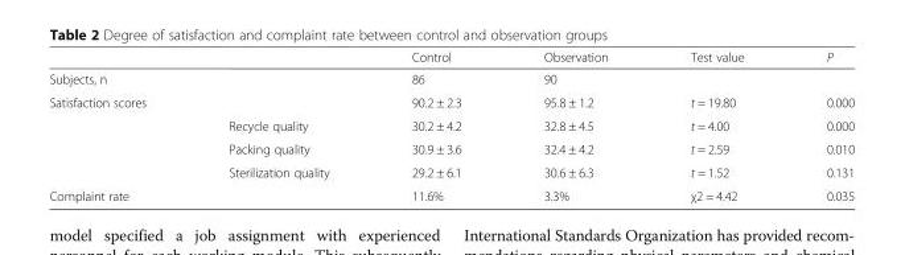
<table><thead><tr><td></td><td></td><td>Control</td><td>Observation</td><td>Test value</td><td>P</td></tr></thead><tbody><tr><td>Subjects, n</td><td></td><td>86</td><td>90</td><td></td><td></td></tr><tr><td rowspan="4">Satisfaction scores</td><td></td><td>90.2 ± 2.3</td><td>95.8 ± 1.2</td><td>t = 19.80</td><td>0.000</td></tr><tr><td>Recycle quality</td><td>30.2 ± 4.2</td><td>32.8 ± 4.5</td><td>t = 4.00</td><td>0.000</td></tr><tr><td>Packing quality</td><td>30.9 ± 3.6</td><td>32.4 ± 4.2</td><td>t = 2.59</td><td>0.010</td></tr><tr><td>Sterilization quality</td><td>29.2 ± 6.1</td><td>30.6 ± 6.3</td><td>t = 1.52</td><td>0.131</td></tr><tr><td>Complaint rate</td><td></td><td>11.6%</td><td>3.3%</td><td>χ2 = 4.42</td><td>0.035</td></tr></tbody></table>